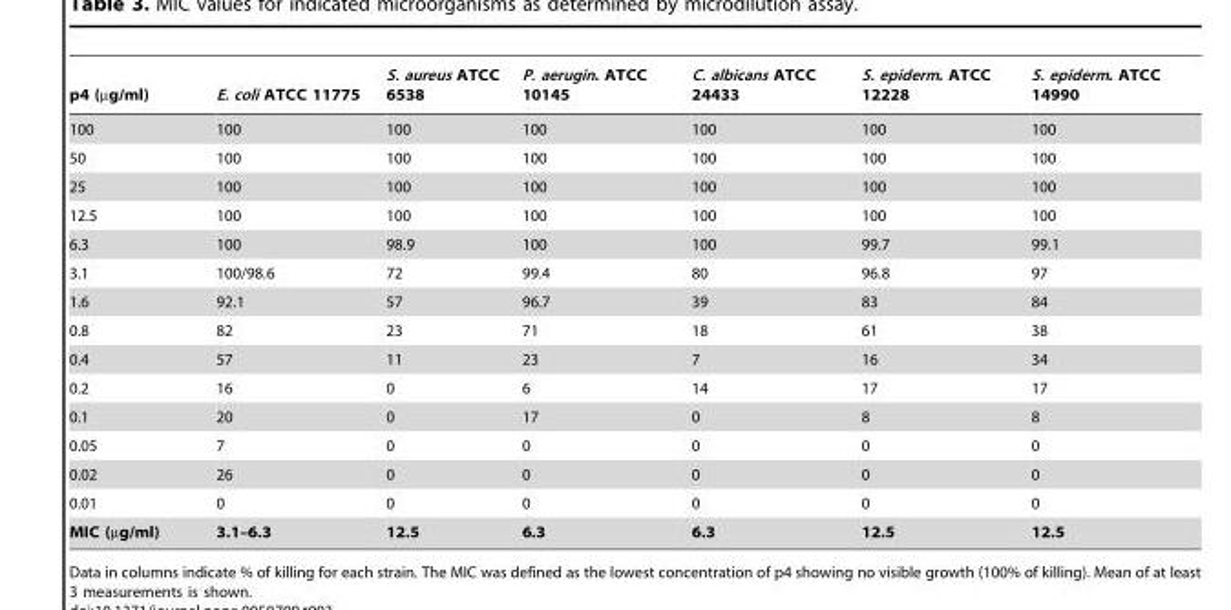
<table><thead><tr><td>p4 (µg/ml)</td><td>E. coli ATCC 11775</td><td>S. aureus ATCC 6538</td><td>P. aerugin. ATCC 10145</td><td>C. albicans ATCC 24433</td><td>S. epiderm. ATCC 12228</td><td>S. epiderm. ATCC 14990</td></tr></thead><tbody><tr><td>100</td><td>100</td><td>100</td><td>100</td><td>100</td><td>100</td><td>100</td></tr><tr><td>50</td><td>100</td><td>100</td><td>100</td><td>100</td><td>100</td><td>100</td></tr><tr><td>25</td><td>100</td><td>100</td><td>100</td><td>100</td><td>100</td><td>100</td></tr><tr><td>12.5</td><td>100</td><td>100</td><td>100</td><td>100</td><td>100</td><td>100</td></tr><tr><td>6.3</td><td>100</td><td>98.9</td><td>100</td><td>100</td><td>99.7</td><td>99.1</td></tr><tr><td>3.1</td><td>100/98.6</td><td>72</td><td>99.4</td><td>80</td><td>96.8</td><td>97</td></tr><tr><td>1.6</td><td>92.1</td><td>57</td><td>96.7</td><td>39</td><td>83</td><td>84</td></tr><tr><td>0.8</td><td>82</td><td>23</td><td>71</td><td>18</td><td>61</td><td>38</td></tr><tr><td>0.4</td><td>57</td><td>11</td><td>23</td><td>7</td><td>16</td><td>34</td></tr><tr><td>0.2</td><td>16</td><td>0</td><td>6</td><td>14</td><td>17</td><td>17</td></tr><tr><td>0.1</td><td>20</td><td>0</td><td>17</td><td>0</td><td>8</td><td>8</td></tr><tr><td>0.05</td><td>7</td><td>0</td><td>0</td><td>0</td><td>0</td><td>0</td></tr><tr><td>0.02</td><td>26</td><td>0</td><td>0</td><td>0</td><td>0</td><td>0</td></tr><tr><td>0.01</td><td>0</td><td>0</td><td>0</td><td>0</td><td>0</td><td>0</td></tr><tr><td>MIC (µg/ml)</td><td>3.1–6.3</td><td>12.5</td><td>6.3</td><td>6.3</td><td>12.5</td><td>12.5</td></tr></tbody></table>